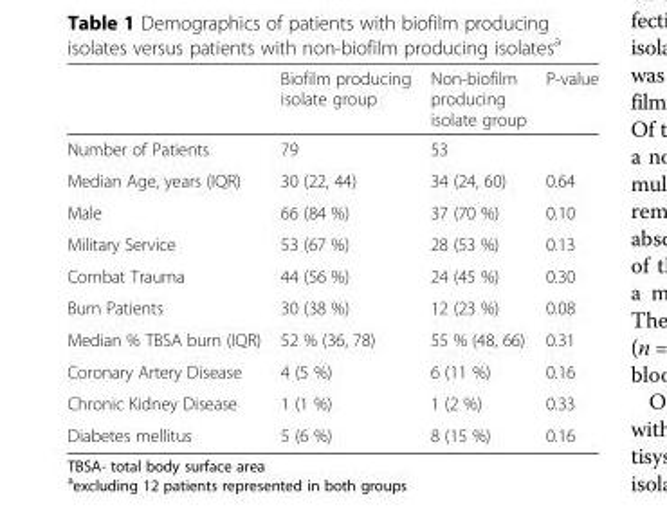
<table><thead><tr><td></td><td>Biofilm producing isolate group</td><td>Non-biofilm producing isolate group</td><td>P-value</td></tr></thead><tbody><tr><td>Number of Patients</td><td>79</td><td>53</td><td></td></tr><tr><td>Median Age, years (IQR)</td><td>30 (22, 44)</td><td>34 (24, 60)</td><td>0.64</td></tr><tr><td>Male</td><td>66 (84 %)</td><td>37 (70 %)</td><td>0.10</td></tr><tr><td>Military Service</td><td>53 (67 %)</td><td>28 (53 %)</td><td>0.13</td></tr><tr><td>Combat Trauma</td><td>44 (56 %)</td><td>24 (45 %)</td><td>0.30</td></tr><tr><td>Burn Patients</td><td>30 (38 %)</td><td>12 (23 %)</td><td>0.08</td></tr><tr><td>Median % TBSA burn (IQR)</td><td>52 % (36, 78)</td><td>55 % (48, 66)</td><td>0.31</td></tr><tr><td>Coronary Artery Disease</td><td>4 (5 %)</td><td>6 (11 %)</td><td>0.16</td></tr><tr><td>Chronic Kidney Disease</td><td>1 (1 %)</td><td>1 (2 %)</td><td>0.33</td></tr><tr><td>Diabetes mellitus</td><td>5 (6 %)</td><td>8 (15 %)</td><td>0.16</td></tr></tbody></table>